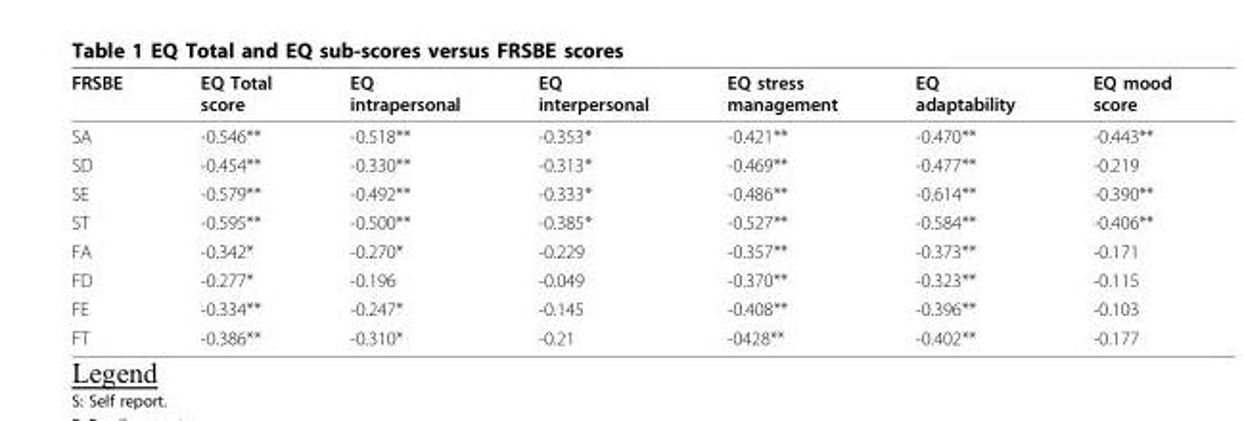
<table><thead><tr><td>FRSBE</td><td>EQ Total score</td><td>EQ intrapersonal</td><td>EQ interpersonal</td><td>EQ stress management</td><td>EQ adaptability</td><td>EQ mood score</td></tr></thead><tbody><tr><td>SA</td><td>-0.546**</td><td>-0.518**</td><td>-0.353*</td><td>-0.421**</td><td>-0.470**</td><td>-0.443**</td></tr><tr><td>SD</td><td>-0.454**</td><td>-0.330**</td><td>-0.313*</td><td>-0.469**</td><td>-0.477**</td><td>-0.219</td></tr><tr><td>SE</td><td>-0.579**</td><td>-0.492**</td><td>-0.333*</td><td>-0.486**</td><td>-0.614**</td><td>-0.390**</td></tr><tr><td>ST</td><td>-0.595**</td><td>-0.500**</td><td>-0.385*</td><td>-0.527**</td><td>-0.584**</td><td>-0.406**</td></tr><tr><td>FA</td><td>-0.342*</td><td>-0.270*</td><td>-0.229</td><td>-0.357**</td><td>-0.373**</td><td>-0.171</td></tr><tr><td>FD</td><td>-0.277*</td><td>-0.196</td><td>-0.049</td><td>-0.370**</td><td>-0.323**</td><td>-0.115</td></tr><tr><td>FE</td><td>-0.334**</td><td>-0.247*</td><td>-0.145</td><td>-0.408**</td><td>-0.396**</td><td>-0.103</td></tr><tr><td>FT</td><td>-0.386**</td><td>-0.310*</td><td>-0.21</td><td>-0428**</td><td>-0.402**</td><td>-0.177</td></tr></tbody></table>